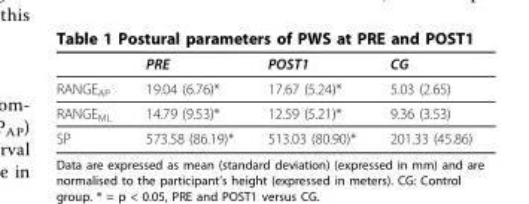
<table><thead><tr><td></td><td>PRE</td><td>POST1</td><td>CG</td></tr></thead><tbody><tr><td>RANGE<sub>AP</sub></td><td>19.04 (6.76)*</td><td>17.67 (5.24)*</td><td>5.03 (2.65)</td></tr><tr><td>RANGE<sub>ML</sub></td><td>14.79 (9.53)*</td><td>12.59 (5.21)*</td><td>9.36 (3.53)</td></tr><tr><td>SP</td><td>573.58 (86.19)*</td><td>513.03 (80.90)*</td><td>201.33 (45.86)</td></tr></tbody></table>